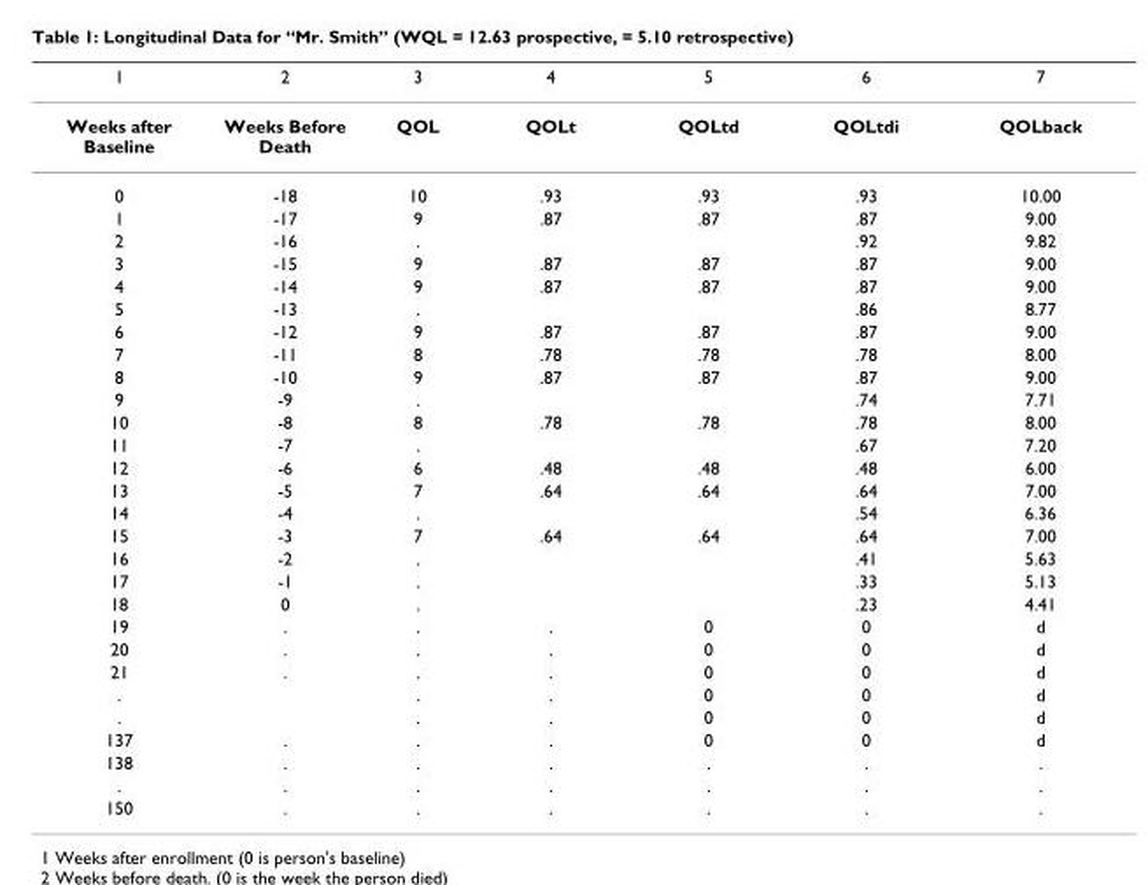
<table><thead><tr><td>1</td><td>2</td><td>3</td><td>4</td><td>5</td><td>6</td><td>7</td></tr></thead><tbody><tr><td>Weeks after Baseline</td><td>Weeks Before Death</td><td>QOL</td><td>QOLt</td><td>QOLtd</td><td>QOLtdi</td><td>QOLback</td></tr><tr><td>0</td><td>-18</td><td>10</td><td>.93</td><td>.93</td><td>.93</td><td>10.00</td></tr><tr><td>1</td><td>-17</td><td>9</td><td>.87</td><td>.87</td><td>.87</td><td>9.00</td></tr><tr><td>2</td><td>-16</td><td>.</td><td></td><td></td><td>.92</td><td>9.82</td></tr><tr><td>3</td><td>-15</td><td>9</td><td>.87</td><td>.87</td><td>.87</td><td>9.00</td></tr><tr><td>4</td><td>-14</td><td>9</td><td>.87</td><td>.87</td><td>.87</td><td>9.00</td></tr><tr><td>5</td><td>-13</td><td>.</td><td></td><td></td><td>.86</td><td>8.77</td></tr><tr><td>6</td><td>-12</td><td>9</td><td>.87</td><td>.87</td><td>.87</td><td>9.00</td></tr><tr><td>7</td><td>-11</td><td>8</td><td>.78</td><td>.78</td><td>.78</td><td>8.00</td></tr><tr><td>8</td><td>-10</td><td>9</td><td>.87</td><td>.87</td><td>.87</td><td>9.00</td></tr><tr><td>9</td><td>-9</td><td>.</td><td></td><td></td><td>.74</td><td>7.71</td></tr><tr><td>10</td><td>-8</td><td>8</td><td>.78</td><td>.78</td><td>.78</td><td>8.00</td></tr><tr><td>11</td><td>-7</td><td>.</td><td></td><td></td><td>.67</td><td>7.20</td></tr><tr><td>12</td><td>-6</td><td>6</td><td>.48</td><td>.48</td><td>.48</td><td>6.00</td></tr><tr><td>13</td><td>-5</td><td>7</td><td>.64</td><td>.64</td><td>.64</td><td>7.00</td></tr><tr><td>14</td><td>-4</td><td>.</td><td></td><td></td><td>.54</td><td>6.36</td></tr><tr><td>15</td><td>-3</td><td>7</td><td>.64</td><td>.64</td><td>.64</td><td>7.00</td></tr><tr><td>16</td><td>-2</td><td>.</td><td></td><td></td><td>.41</td><td>5.63</td></tr><tr><td>17</td><td>-1</td><td>.</td><td></td><td></td><td>.33</td><td>5.13</td></tr><tr><td>18</td><td>0</td><td>.</td><td></td><td></td><td>.23</td><td>4.41</td></tr><tr><td>19</td><td>.</td><td>.</td><td>.</td><td>0</td><td>0</td><td>d</td></tr><tr><td>20</td><td>.</td><td>.</td><td>.</td><td>0</td><td>0</td><td>d</td></tr><tr><td>21</td><td>.</td><td>.</td><td>.</td><td>0</td><td>0</td><td>d</td></tr><tr><td>.</td><td></td><td>.</td><td>.</td><td>0</td><td>0</td><td>d</td></tr><tr><td>.</td><td></td><td>.</td><td>.</td><td>0</td><td>0</td><td>d</td></tr><tr><td>137</td><td>.</td><td>.</td><td>.</td><td>0</td><td>0</td><td>d</td></tr><tr><td>138</td><td>.</td><td>.</td><td>.</td><td>.</td><td>.</td><td>.</td></tr><tr><td>.</td><td>.</td><td>.</td><td>.</td><td>.</td><td>.</td><td>.</td></tr><tr><td>150</td><td>.</td><td>.</td><td>.</td><td>.</td><td>.</td><td>.</td></tr></tbody></table>